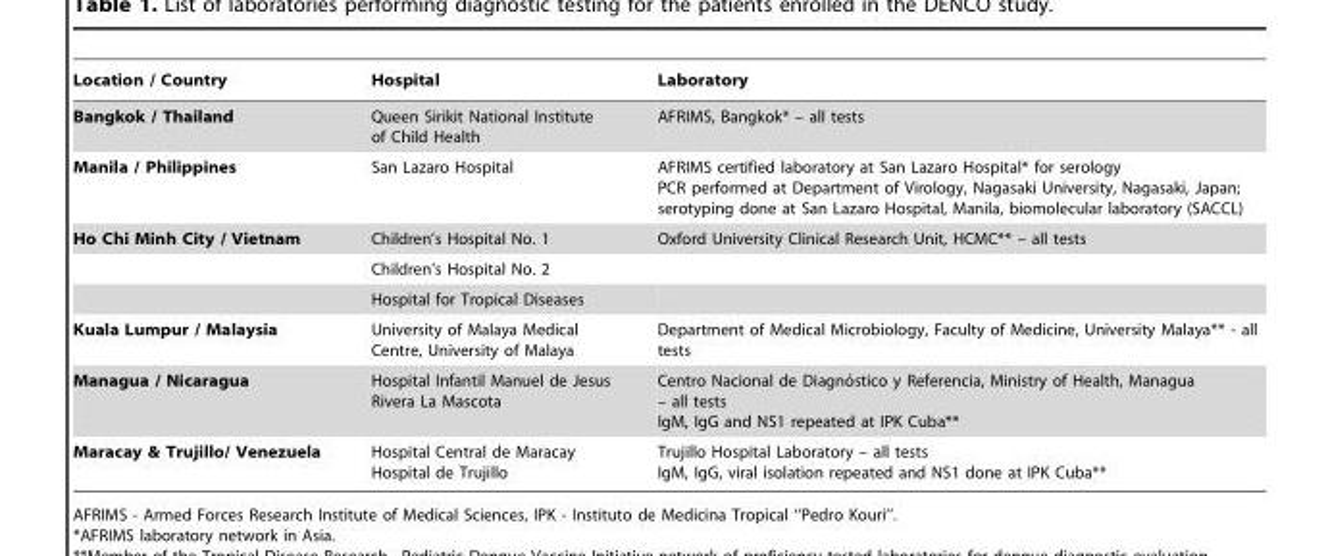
<table><thead><tr><td>Location / Country</td><td>Hospital</td><td>Laboratory</td></tr></thead><tbody><tr><td>Bangkok / Thailand</td><td>Queen Sirikit National Institute of Child Health</td><td>AFRIMS, Bangkok* – all tests</td></tr><tr><td>Manila / Philippines</td><td>San Lazaro Hospital</td><td>AFRIMS certified laboratory at San Lazaro Hospital* for serology PCR performed at Department of Virology, Nagasaki University, Nagasaki, Japan; serotyping done at San Lazaro Hospital, Manila, biomolecular laboratory (SACCL)</td></tr><tr><td rowspan="3">Ho Chi Minh City / Vietnam</td><td>Children’s Hospital No. 1</td><td>Oxford University Clinical Research Unit, HCMC** – all tests</td></tr><tr><td>Children’s Hospital No. 2</td><td></td></tr><tr><td>Hospital for Tropical Diseases</td><td></td></tr><tr><td>Kuala Lumpur / Malaysia</td><td>University of Malaya Medical Centre, University of Malaya</td><td>Department of Medical Microbiology, Faculty of Medicine, University Malaya** - all tests</td></tr><tr><td>Managua / Nicaragua</td><td>Hospital Infantil Manuel de Jesus Rivera La Mascota</td><td>Centro Nacional de Diagno´stico y Referencia, Ministry of Health, Managua – all tests IgM, IgG and NS1 repeated at IPK Cuba**</td></tr><tr><td>Maracay &amp; Trujillo/ Venezuela</td><td>Hospital Central de Maracay Hospital de Trujillo</td><td>Trujillo Hospital Laboratory – all tests IgM, IgG, viral isolation repeated and NS1 done at IPK Cuba**</td></tr></tbody></table>